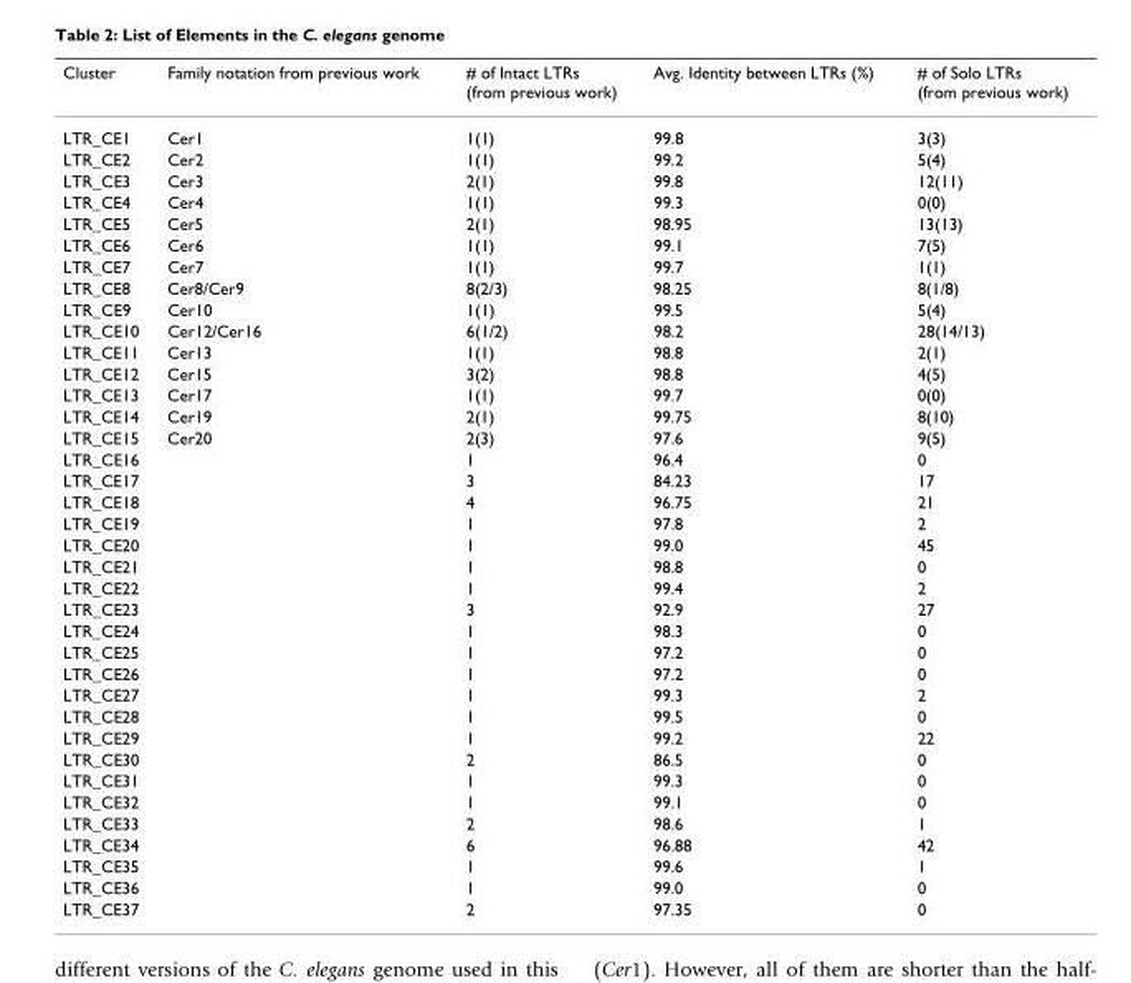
<table><thead><tr><td>Cluster</td><td>Family notation from previous work</td><td># of Intact LTRs (from previous work)</td><td>Avg. Identity between LTRs (%)</td><td># of Solo LTRs (from previous work)</td></tr></thead><tbody><tr><td>LTR_CE1</td><td>Cer1</td><td>1(1)</td><td>99.8</td><td>3(3)</td></tr><tr><td>LTR_CE2</td><td>Cer2</td><td>1(1)</td><td>99.2</td><td>5(4)</td></tr><tr><td>LTR_CE3</td><td>Cer3</td><td>2(1)</td><td>99.8</td><td>12(11)</td></tr><tr><td>LTR_CE4</td><td>Cer4</td><td>1(1)</td><td>99.3</td><td>0(0)</td></tr><tr><td>LTR_CE5</td><td>Cer5</td><td>2(1)</td><td>98.95</td><td>13(13)</td></tr><tr><td>LTR_CE6</td><td>Cer6</td><td>1(1)</td><td>99.1</td><td>7(5)</td></tr><tr><td>LTR_CE7</td><td>Cer7</td><td>1(1)</td><td>99.7</td><td>1(1)</td></tr><tr><td>LTR_CE8</td><td>Cer8/Cer9</td><td>8(2/3)</td><td>98.25</td><td>8(1/8)</td></tr><tr><td>LTR_CE9</td><td>Cer10</td><td>1(1)</td><td>99.5</td><td>5(4)</td></tr><tr><td>LTR_CE10</td><td>Cer12/Cer16</td><td>6(1/2)</td><td>98.2</td><td>28(14/13)</td></tr><tr><td>LTR_CE11</td><td>Cer13</td><td>1(1)</td><td>98.8</td><td>2(1)</td></tr><tr><td>LTR_CE12</td><td>Cer15</td><td>3(2)</td><td>98.8</td><td>4(5)</td></tr><tr><td>LTR_CE13</td><td>Cer17</td><td>1(1)</td><td>99.7</td><td>0(0)</td></tr><tr><td>LTR_CE14</td><td>Cer19</td><td>2(1)</td><td>99.75</td><td>8(10)</td></tr><tr><td>LTR_CE15</td><td>Cer20</td><td>2(3)</td><td>97.6</td><td>9(5)</td></tr><tr><td>LTR_CE16</td><td></td><td>1</td><td>96.4</td><td>0</td></tr><tr><td>LTR_CE17</td><td></td><td>3</td><td>84.23</td><td>17</td></tr><tr><td>LTR_CE18</td><td></td><td>4</td><td>96.75</td><td>21</td></tr><tr><td>LTR_CE19</td><td></td><td>1</td><td>97.8</td><td>2</td></tr><tr><td>LTR_CE20</td><td></td><td>1</td><td>99.0</td><td>45</td></tr><tr><td>LTR_CE21</td><td></td><td>1</td><td>98.8</td><td>0</td></tr><tr><td>LTR_CE22</td><td></td><td>1</td><td>99.4</td><td>2</td></tr><tr><td>LTR_CE23</td><td></td><td>3</td><td>92.9</td><td>27</td></tr><tr><td>LTR_CE24</td><td></td><td>1</td><td>98.3</td><td>0</td></tr><tr><td>LTR_CE25</td><td></td><td>1</td><td>97.2</td><td>0</td></tr><tr><td>LTR_CE26</td><td></td><td>1</td><td>97.2</td><td>0</td></tr><tr><td>LTR_CE27</td><td></td><td>1</td><td>99.3</td><td>2</td></tr><tr><td>LTR_CE28</td><td></td><td>1</td><td>99.5</td><td>0</td></tr><tr><td>LTR_CE29</td><td></td><td>1</td><td>99.2</td><td>22</td></tr><tr><td>LTR_CE30</td><td></td><td>2</td><td>86.5</td><td>0</td></tr><tr><td>LTR_CE31</td><td></td><td>1</td><td>99.3</td><td>0</td></tr><tr><td>LTR_CE32</td><td></td><td>1</td><td>99.1</td><td>0</td></tr><tr><td>LTR_CE33</td><td></td><td>2</td><td>98.6</td><td>1</td></tr><tr><td>LTR_CE34</td><td></td><td>6</td><td>96.88</td><td>42</td></tr><tr><td>LTR_CE35</td><td></td><td>1</td><td>99.6</td><td>1</td></tr><tr><td>LTR_CE36</td><td></td><td>1</td><td>99.0</td><td>0</td></tr><tr><td>LTR_CE37</td><td></td><td>2</td><td>97.35</td><td>0</td></tr></tbody></table>